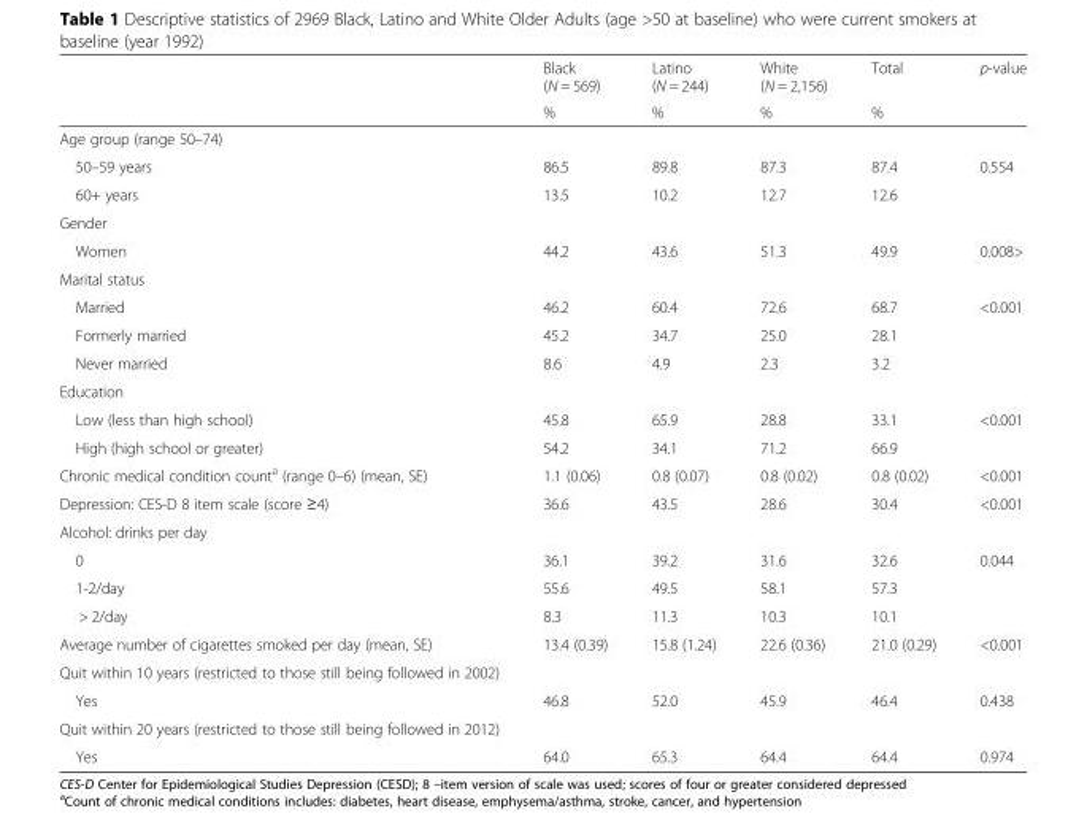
<table><thead><tr><td rowspan="2"></td><td rowspan="2">Black (N = 569) %</td><td rowspan="2">Latino (N = 244) %</td><td rowspan="2">White (N = 2,156) %</td><td rowspan="2">Total %</td><td rowspan="2">p-value</td></tr><tr></tr></thead><tbody><tr><td colspan="6">Age group (range 50–74)</td></tr><tr><td>50–59 years</td><td>86.5</td><td>89.8</td><td>87.3</td><td>87.4</td><td>0.554</td></tr><tr><td>60+ years</td><td>13.5</td><td>10.2</td><td>12.7</td><td>12.6</td><td></td></tr><tr><td colspan="6">Gender</td></tr><tr><td>Women</td><td>44.2</td><td>43.6</td><td>51.3</td><td>49.9</td><td>0.008&gt;</td></tr><tr><td colspan="6">Marital status</td></tr><tr><td>Married</td><td>46.2</td><td>60.4</td><td>72.6</td><td>68.7</td><td>&lt;0.001</td></tr><tr><td>Formerly married</td><td>45.2</td><td>34.7</td><td>25.0</td><td>28.1</td><td></td></tr><tr><td>Never married</td><td>8.6</td><td>4.9</td><td>2.3</td><td>3.2</td><td></td></tr><tr><td colspan="6">Education</td></tr><tr><td>Low (less than high school)</td><td>45.8</td><td>65.9</td><td>28.8</td><td>33.1</td><td>&lt;0.001</td></tr><tr><td>High (high school or greater)</td><td>54.2</td><td>34.1</td><td>71.2</td><td>66.9</td><td></td></tr><tr><td>Chronic medical condition count<sup>a</sup> (range 0–6) (mean, SE)</td><td>1.1 (0.06)</td><td>0.8 (0.07)</td><td>0.8 (0.02)</td><td>0.8 (0.02)</td><td>&lt;0.001</td></tr><tr><td>Depression: CES-D 8 item scale (score ≥4)</td><td>36.6</td><td>43.5</td><td>28.6</td><td>30.4</td><td>&lt;0.001</td></tr><tr><td colspan="6">Alcohol: drinks per day</td></tr><tr><td>0</td><td>36.1</td><td>39.2</td><td>31.6</td><td>32.6</td><td>0.044</td></tr><tr><td>1-2/day</td><td>55.6</td><td>49.5</td><td>58.1</td><td>57.3</td><td></td></tr><tr><td>&gt; 2/day</td><td>8.3</td><td>11.3</td><td>10.3</td><td>10.1</td><td></td></tr><tr><td>Average number of cigarettes smoked per day (mean, SE)</td><td>13.4 (0.39)</td><td>15.8 (1.24)</td><td>22.6 (0.36)</td><td>21.0 (0.29)</td><td>&lt;0.001</td></tr><tr><td colspan="6">Quit within 10 years (restricted to those still being followed in 2002)</td></tr><tr><td>Yes</td><td>46.8</td><td>52.0</td><td>45.9</td><td>46.4</td><td>0.438</td></tr><tr><td colspan="6">Quit within 20 years (restricted to those still being followed in 2012)</td></tr><tr><td>Yes</td><td>64.0</td><td>65.3</td><td>64.4</td><td>64.4</td><td>0.974</td></tr></tbody></table>